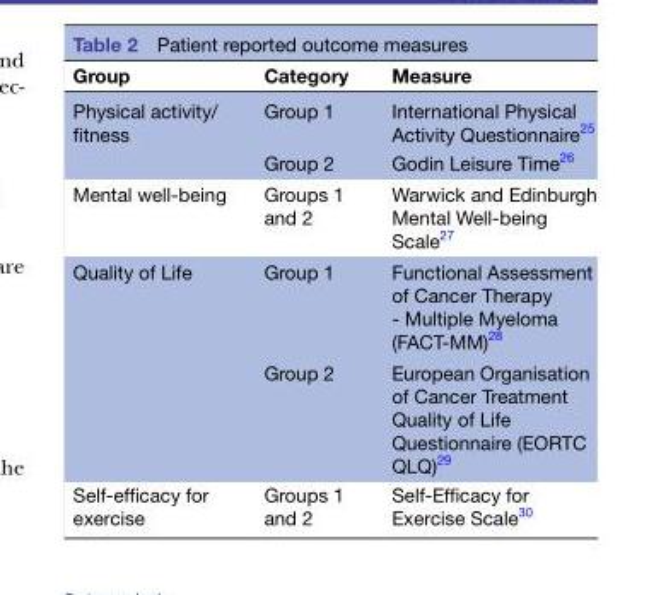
<table><thead><tr><td>Group</td><td>Category</td><td>Measure</td></tr></thead><tbody><tr><td rowspan="2">Physical activity/ fitness</td><td>Group 1</td><td>International Physical Activity Questionnaire<sup>25</sup></td></tr><tr><td>Group 2</td><td>Godin Leisure Time<sup>26</sup></td></tr><tr><td>Mental well-being</td><td>Groups 1 and 2</td><td>Warwick and Edinburgh Mental Well-being Scale<sup>27</sup></td></tr><tr><td rowspan="2">Quality of Life</td><td>Group 1</td><td>Functional Assessment of Cancer Therapy - Multiple Myeloma (FACT-MM)<sup>28</sup></td></tr><tr><td>Group 2</td><td>European Organisation of Cancer Treatment Quality of Life Questionnaire (EORTC QLQ)<sup>29</sup></td></tr><tr><td>Self-efficacy for exercise</td><td>Groups 1 and 2</td><td>Self-Efficacy for Exercise Scale<sup>30</sup></td></tr></tbody></table>